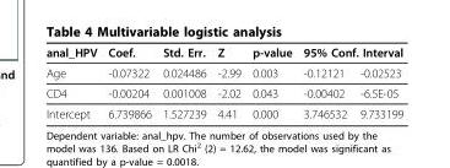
<table><thead><tr><td rowspan="2">anal_HPV Age</td><td rowspan="2">Coef. -0.07322</td><td rowspan="2">Std. Err. 0.024486</td><td rowspan="2">Z -2.99</td><td rowspan="2">p-value 0.003</td><td colspan="2">95% Conf. Interval</td></tr><tr><td>-0.12121</td><td>-0.02523</td></tr></thead><tbody><tr><td>CD4</td><td>-0.00204</td><td>0.001008</td><td>-2.02</td><td>0.043</td><td>-0.00402</td><td>-6.5E-05</td></tr><tr><td>Intercept</td><td>6.739866</td><td>1.527239</td><td>4.41</td><td>0.000</td><td>3.746532</td><td>9.733199</td></tr></tbody></table>